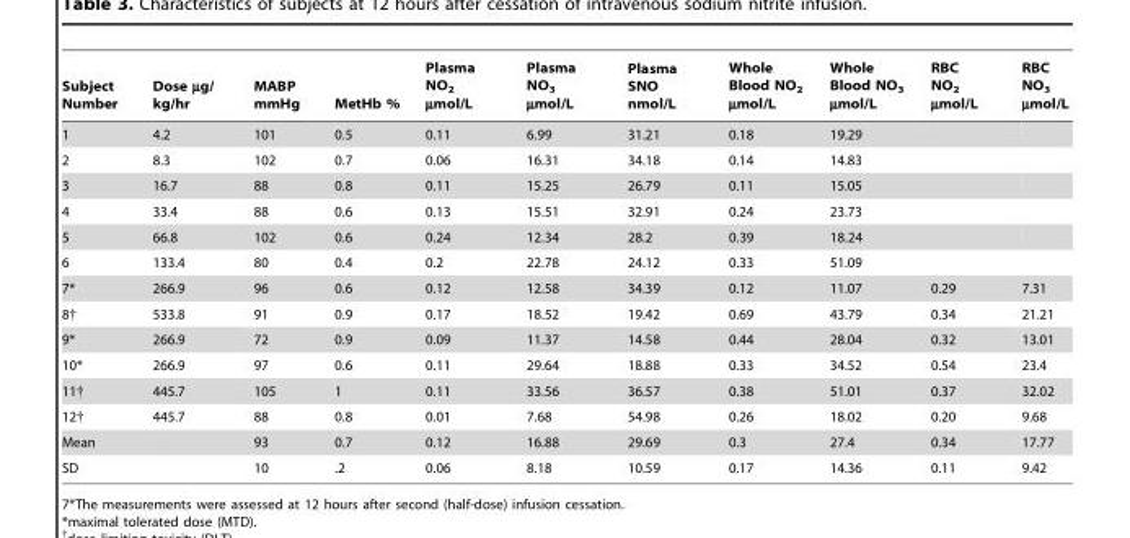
<table><thead><tr><td>Subject Number</td><td>Dose µg/ kg/hr</td><td>MABP mmHg</td><td>MetHb %</td><td>Plasma NO<sub>2</sub> µmol/L</td><td>Plasma NO<sub>3</sub> µmol/L</td><td>Plasma SNO nmol/L</td><td>Whole Blood NO<sub>2</sub> µmol/L</td><td>Whole Blood NO<sub>3</sub> µmol/L</td><td>RBC NO<sub>2</sub> µmol/L</td><td>RBC NO<sub>3</sub> µmol/L</td></tr></thead><tbody><tr><td>1</td><td>4.2</td><td>101</td><td>0.5</td><td>0.11</td><td>6.99</td><td>31.21</td><td>0.18</td><td>19.29</td><td></td><td></td></tr><tr><td>2</td><td>8.3</td><td>102</td><td>0.7</td><td>0.06</td><td>16.31</td><td>34.18</td><td>0.14</td><td>14.83</td><td></td><td></td></tr><tr><td>3</td><td>16.7</td><td>88</td><td>0.8</td><td>0.11</td><td>15.25</td><td>26.79</td><td>0.11</td><td>15.05</td><td></td><td></td></tr><tr><td>4</td><td>33.4</td><td>88</td><td>0.6</td><td>0.13</td><td>15.51</td><td>32.91</td><td>0.24</td><td>23.73</td><td></td><td></td></tr><tr><td>5</td><td>66.8</td><td>102</td><td>0.6</td><td>0.24</td><td>12.34</td><td>28.2</td><td>0.39</td><td>18.24</td><td></td><td></td></tr><tr><td>6</td><td>133.4</td><td>80</td><td>0.4</td><td>0.2</td><td>22.78</td><td>24.12</td><td>0.33</td><td>51.09</td><td></td><td></td></tr><tr><td>7*</td><td>266.9</td><td>96</td><td>0.6</td><td>0.12</td><td>12.58</td><td>34.39</td><td>0.12</td><td>11.07</td><td>0.29</td><td>7.31</td></tr><tr><td>8†</td><td>533.8</td><td>91</td><td>0.9</td><td>0.17</td><td>18.52</td><td>19.42</td><td>0.69</td><td>43.79</td><td>0.34</td><td>21.21</td></tr><tr><td>9*</td><td>266.9</td><td>72</td><td>0.9</td><td>0.09</td><td>11.37</td><td>14.58</td><td>0.44</td><td>28.04</td><td>0.32</td><td>13.01</td></tr><tr><td>10*</td><td>266.9</td><td>97</td><td>0.6</td><td>0.11</td><td>29.64</td><td>18.88</td><td>0.33</td><td>34.52</td><td>0.54</td><td>23.4</td></tr><tr><td>11†</td><td>445.7</td><td>105</td><td>1</td><td>0.11</td><td>33.56</td><td>36.57</td><td>0.38</td><td>51.01</td><td>0.37</td><td>32.02</td></tr><tr><td>12†</td><td>445.7</td><td>88</td><td>0.8</td><td>0.01</td><td>7.68</td><td>54.98</td><td>0.26</td><td>18.02</td><td>0.20</td><td>9.68</td></tr><tr><td>Mean</td><td></td><td>93</td><td>0.7</td><td>0.12</td><td>16.88</td><td>29.69</td><td>0.3</td><td>27.4</td><td>0.34</td><td>17.77</td></tr><tr><td>SD</td><td></td><td>10</td><td>.2</td><td>0.06</td><td>8.18</td><td>10.59</td><td>0.17</td><td>14.36</td><td>0.11</td><td>9.42</td></tr></tbody></table>